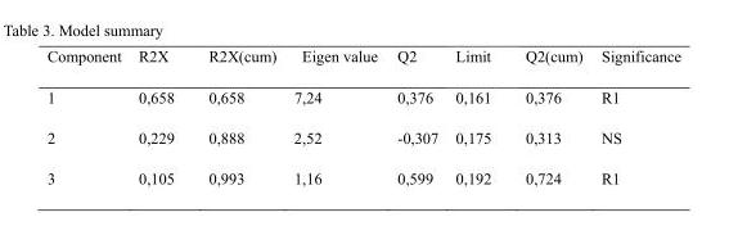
<table><thead><tr><td>Component</td><td>R2X</td><td>R2X(cum)</td><td>Eigen value</td><td>Q2</td><td>Limit</td><td>Q2(cum)</td><td>Significance</td></tr></thead><tbody><tr><td>1</td><td>0,658</td><td>0,658</td><td>7,24</td><td>0,376</td><td>0,161</td><td>0,376</td><td>R1</td></tr><tr><td>2</td><td>0,229</td><td>0,888</td><td>2,52</td><td>-0,307</td><td>0,175</td><td>0,313</td><td>NS</td></tr><tr><td>3</td><td>0,105</td><td>0,993</td><td>1,16</td><td>0,599</td><td>0,192</td><td>0,724</td><td>R1</td></tr></tbody></table>